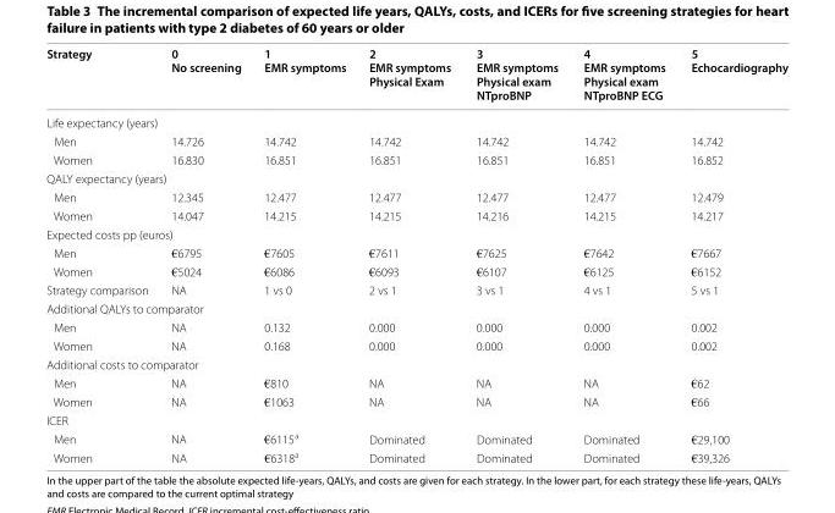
<table><thead><tr><td>Strategy</td><td>0 No screening</td><td>1 EMR symptoms</td><td>2 EMR symptoms Physical Exam</td><td>3 EMR symptoms Physical exam NTproBNP</td><td>4 EMR symptoms Physical exam NTproBNP ECG</td><td>5 Echocardiography</td></tr></thead><tbody><tr><td colspan="7">Life expectancy (years)</td></tr><tr><td>Men</td><td>14.726</td><td>14.742</td><td>14.742</td><td>14.742</td><td>14.742</td><td>14.742</td></tr><tr><td>Women</td><td>16.830</td><td>16.851</td><td>16.851</td><td>16.851</td><td>16.851</td><td>16.852</td></tr><tr><td colspan="7">QALY expectancy (years)</td></tr><tr><td>Men</td><td>12.345</td><td>12.477</td><td>12.477</td><td>12.477</td><td>12.477</td><td>12.479</td></tr><tr><td>Women</td><td>14.047</td><td>14.215</td><td>14.215</td><td>14.216</td><td>14.215</td><td>14.217</td></tr><tr><td colspan="7">Expected costs pp (euros)</td></tr><tr><td>Men</td><td>€6795</td><td>€7605</td><td>€7611</td><td>€7625</td><td>€7642</td><td>€7667</td></tr><tr><td>Women</td><td>€5024</td><td>€6086</td><td>€6093</td><td>€6107</td><td>€6125</td><td>€6152</td></tr><tr><td>Strategy comparison</td><td>NA</td><td>1 vs 0</td><td>2 vs 1</td><td>3 vs 1</td><td>4 vs 1</td><td>5 vs 1</td></tr><tr><td colspan="7">Additional QALYs to comparator</td></tr><tr><td>Men</td><td>NA</td><td>0.132</td><td>0.000</td><td>0.000</td><td>0.000</td><td>0.002</td></tr><tr><td>Women</td><td>NA</td><td>0.168</td><td>0.000</td><td>0.000</td><td>0.000</td><td>0.002</td></tr><tr><td colspan="7">Additional costs to comparator</td></tr><tr><td>Men</td><td>NA</td><td>€810</td><td>NA</td><td>NA</td><td>NA</td><td>€62</td></tr><tr><td>Women</td><td>NA</td><td>€1063</td><td>NA</td><td>NA</td><td>NA</td><td>€66</td></tr><tr><td colspan="7">ICER</td></tr><tr><td>Men</td><td>NA</td><td>€6115<sup>a</sup></td><td>Dominated</td><td>Dominated</td><td>Dominated</td><td>€29,100</td></tr><tr><td>Women</td><td>NA</td><td>€6318<sup>a</sup></td><td>Dominated</td><td>Dominated</td><td>Dominated</td><td>€39,326</td></tr></tbody></table>